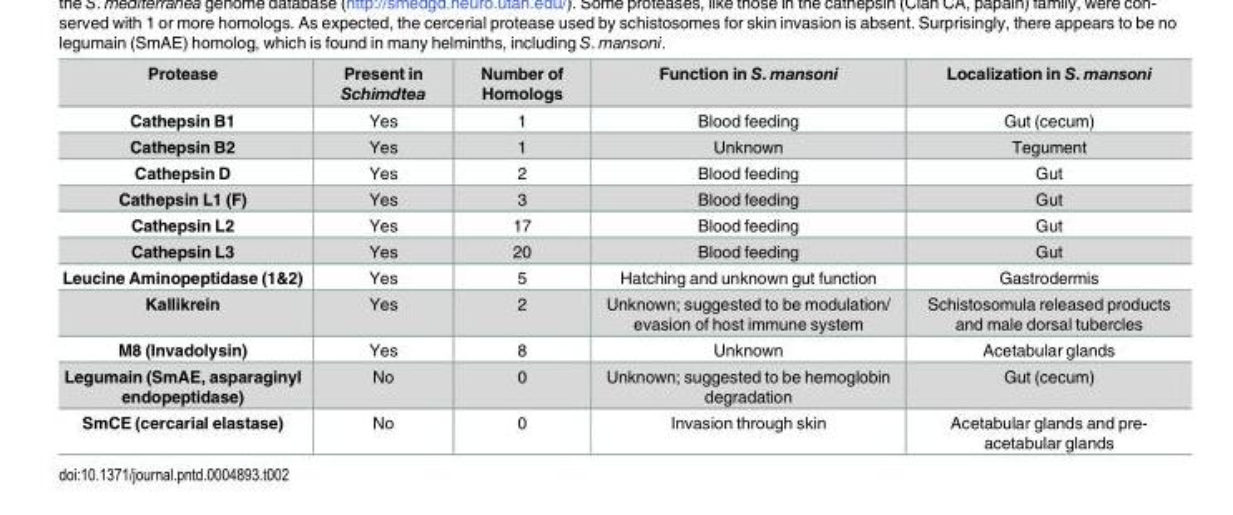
<table><thead><tr><td>Protease</td><td>Present in Schimdtea</td><td>Number of Homologs</td><td>Function in S. mansoni</td><td>Localization in S. mansoni</td></tr></thead><tbody><tr><td>Cathepsin B1</td><td>Yes</td><td>1</td><td>Blood feeding</td><td>Gut (cecum)</td></tr><tr><td>Cathepsin B2</td><td>Yes</td><td>1</td><td>Unknown</td><td>Tegument</td></tr><tr><td>Cathepsin D</td><td>Yes</td><td>2</td><td>Blood feeding</td><td>Gut</td></tr><tr><td>Cathepsin L1 (F)</td><td>Yes</td><td>3</td><td>Blood feeding</td><td>Gut</td></tr><tr><td>Cathepsin L2</td><td>Yes</td><td>17</td><td>Blood feeding</td><td>Gut</td></tr><tr><td>Cathepsin L3</td><td>Yes</td><td>20</td><td>Blood feeding</td><td>Gut</td></tr><tr><td>Leucine Aminopeptidase (1&amp;2)</td><td>Yes</td><td>5</td><td>Hatching and unknown gut function</td><td>Gastrodermis</td></tr><tr><td>Kallikrein</td><td>Yes</td><td>2</td><td>Unknown; suggested to be modulation/ evasion of host immune system</td><td>Schistosomula released products and male dorsal tubercles</td></tr><tr><td>M8 (Invadolysin)</td><td>Yes</td><td>8</td><td>Unknown</td><td>Acetabular glands</td></tr><tr><td>Legumain (SmAE, asparaginyl endopeptidase)</td><td>No</td><td>0</td><td>Unknown; suggested to be hemoglobin degradation</td><td>Gut (cecum)</td></tr><tr><td>SmCE (cercarial elastase)</td><td>No</td><td>0</td><td>Invasion through skin</td><td>Acetabular glands and pre- acetabular glands</td></tr></tbody></table>